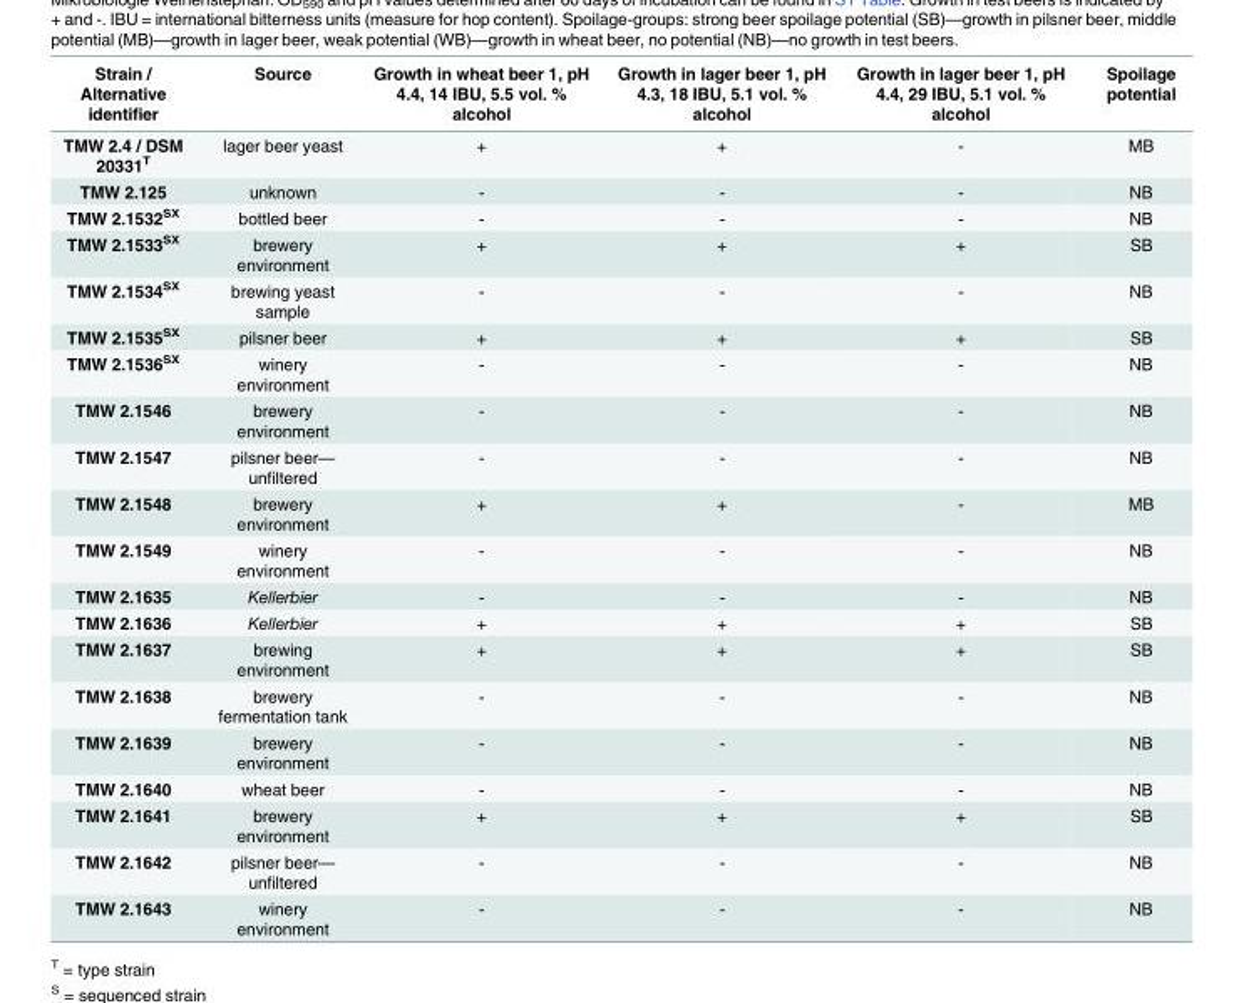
<table><thead><tr><td>Strain / Alternative identifier</td><td>Source</td><td>Growth in wheat beer 1, pH 4.4, 14 IBU, 5.5 vol. % alcohol</td><td>Growth in lager beer 1, pH 4.3, 18 IBU, 5.1 vol. % alcohol</td><td>Growth in lager beer 1, pH 4.4, 29 IBU, 5.1 vol. % alcohol</td><td>Spoilage potential</td></tr></thead><tbody><tr><td>TMW 2.4 / DSM 20331<sup>T</sup></td><td>lager beer yeast</td><td>+</td><td>+</td><td>-</td><td>MB</td></tr><tr><td>TMW 2.125</td><td>unknown</td><td>-</td><td>-</td><td>-</td><td>NB</td></tr><tr><td>TMW 2.1532<sup>SX</sup></td><td>bottled beer</td><td>-</td><td>-</td><td>-</td><td>NB</td></tr><tr><td>TMW 2.1533<sup>SX</sup></td><td>brewery environment</td><td>+</td><td>+</td><td>+</td><td>SB</td></tr><tr><td>TMW 2.1534<sup>SX</sup></td><td>brewing yeast sample</td><td>-</td><td>-</td><td>-</td><td>NB</td></tr><tr><td>TMW 2.1535<sup>SX</sup></td><td>pilsner beer</td><td>+</td><td>+</td><td>+</td><td>SB</td></tr><tr><td>TMW 2.1536<sup>SX</sup></td><td>winery environment</td><td>-</td><td>-</td><td>-</td><td>NB</td></tr><tr><td>TMW 2.1546</td><td>brewery environment</td><td>-</td><td>-</td><td>-</td><td>NB</td></tr><tr><td>TMW 2.1547</td><td>pilsner beer— unfiltered</td><td>-</td><td>-</td><td>-</td><td>NB</td></tr><tr><td>TMW 2.1548</td><td>brewery environment</td><td>+</td><td>+</td><td>-</td><td>MB</td></tr><tr><td>TMW 2.1549</td><td>winery environment</td><td>-</td><td>-</td><td>-</td><td>NB</td></tr><tr><td>TMW 2.1635</td><td>Kellerbier</td><td>-</td><td>-</td><td>-</td><td>NB</td></tr><tr><td>TMW 2.1636</td><td>Kellerbier</td><td>+</td><td>+</td><td>+</td><td>SB</td></tr><tr><td>TMW 2.1637</td><td>brewing environment</td><td>+</td><td>+</td><td>+</td><td>SB</td></tr><tr><td>TMW 2.1638</td><td>brewery fermentation tank</td><td>-</td><td>-</td><td>-</td><td>NB</td></tr><tr><td>TMW 2.1639</td><td>brewery environment</td><td>-</td><td>-</td><td>-</td><td>NB</td></tr><tr><td>TMW 2.1640</td><td>wheat beer</td><td>-</td><td>-</td><td>-</td><td>NB</td></tr><tr><td>TMW 2.1641</td><td>brewery environment</td><td>+</td><td>+</td><td>+</td><td>SB</td></tr><tr><td>TMW 2.1642</td><td>pilsner beer— unfiltered</td><td>-</td><td>-</td><td>-</td><td>NB</td></tr><tr><td>TMW 2.1643</td><td>winery environment</td><td>-</td><td>-</td><td>-</td><td>NB</td></tr></tbody></table>